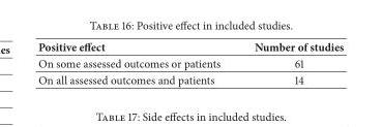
<table><thead><tr><td>Positive effect</td><td>Number of studies</td></tr></thead><tbody><tr><td>On some assessed outcomes or patients</td><td>61</td></tr><tr><td>On all assessed outcomes and patients</td><td>14</td></tr></tbody></table>